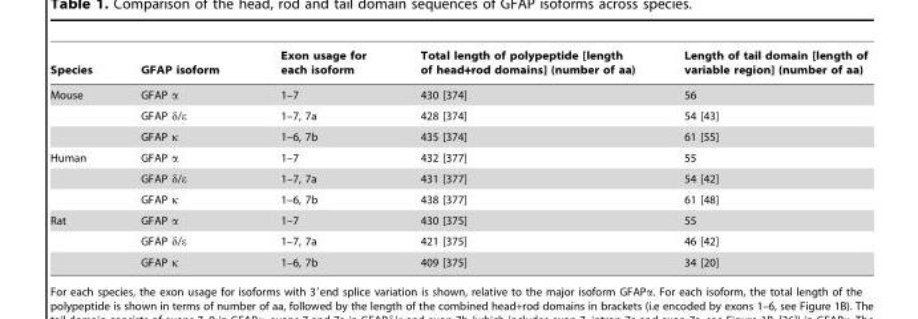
<table><thead><tr><td>Species</td><td>GFAP isoform</td><td>Exon usage for each isoform</td><td>Total length of polypeptide [length of head+rod domains] (number of aa)</td><td>Length of tail domain [length of variable region] (number of aa)</td></tr></thead><tbody><tr><td rowspan="3">Mouse</td><td>GFAP α</td><td>1–7</td><td>430 [374]</td><td>56</td></tr><tr><td>GFAP δ/ε</td><td>1–7, 7a</td><td>428 [374]</td><td>54 [43]</td></tr><tr><td>GFAP κ</td><td>1–6, 7b</td><td>435 [374]</td><td>61 [55]</td></tr><tr><td rowspan="3">Human</td><td>GFAP α</td><td>1–7</td><td>432 [377]</td><td>55</td></tr><tr><td>GFAP δ/ε</td><td>1–7, 7a</td><td>431 [377]</td><td>54 [42]</td></tr><tr><td>GFAP κ</td><td>1–6, 7b</td><td>438 [377]</td><td>61 [48]</td></tr><tr><td rowspan="3">Rat</td><td>GFAP α</td><td>1–7</td><td>430 [375]</td><td>55</td></tr><tr><td>GFAP δ/ε</td><td>1–7, 7a</td><td>421 [375]</td><td>46 [42]</td></tr><tr><td>GFAP κ</td><td>1–6, 7b</td><td>409 [375]</td><td>34 [20]</td></tr></tbody></table>